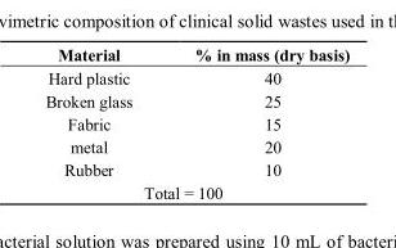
<table><thead><tr><td>Material</td><td>% in mass (dry basis)</td></tr></thead><tbody><tr><td>Hard plastic</td><td>40</td></tr><tr><td>Broken glass</td><td>25</td></tr><tr><td>Fabric</td><td>15</td></tr><tr><td>metal</td><td>20</td></tr><tr><td>Rubber</td><td>10</td></tr><tr><td colspan="2">Total = 100</td></tr></tbody></table>